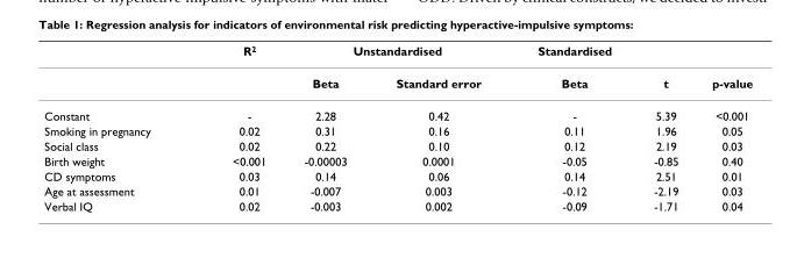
<table><thead><tr><td rowspan="2"></td><td rowspan="2">R2</td><td colspan="2">Unstandardised</td><td rowspan="2">Standardised Beta</td><td rowspan="2">t</td><td rowspan="2">p-value</td></tr><tr><td>Beta</td><td>Standard error</td></tr></thead><tbody><tr><td>Constant</td><td>-</td><td>2.28</td><td>0.42</td><td>-</td><td>5.39</td><td>&lt;0.001</td></tr><tr><td>Smoking in pregnancy</td><td>0.02</td><td>0.31</td><td>0.16</td><td>0.11</td><td>1.96</td><td>0.05</td></tr><tr><td>Social class</td><td>0.02</td><td>0.22</td><td>0.10</td><td>0.12</td><td>2.19</td><td>0.03</td></tr><tr><td>Birth weight</td><td>&lt;0.001</td><td>-0.00003</td><td>0.0001</td><td>-0.05</td><td>-0.85</td><td>0.40</td></tr><tr><td>CD symptoms</td><td>0.03</td><td>0.14</td><td>0.06</td><td>0.14</td><td>2.51</td><td>0.01</td></tr><tr><td>Age at assessment</td><td>0.01</td><td>-0.007</td><td>0.003</td><td>-0.12</td><td>-2.19</td><td>0.03</td></tr><tr><td>Verbal IQ</td><td>0.02</td><td>-0.003</td><td>0.002</td><td>-0.09</td><td>-1.71</td><td>0.04</td></tr></tbody></table>